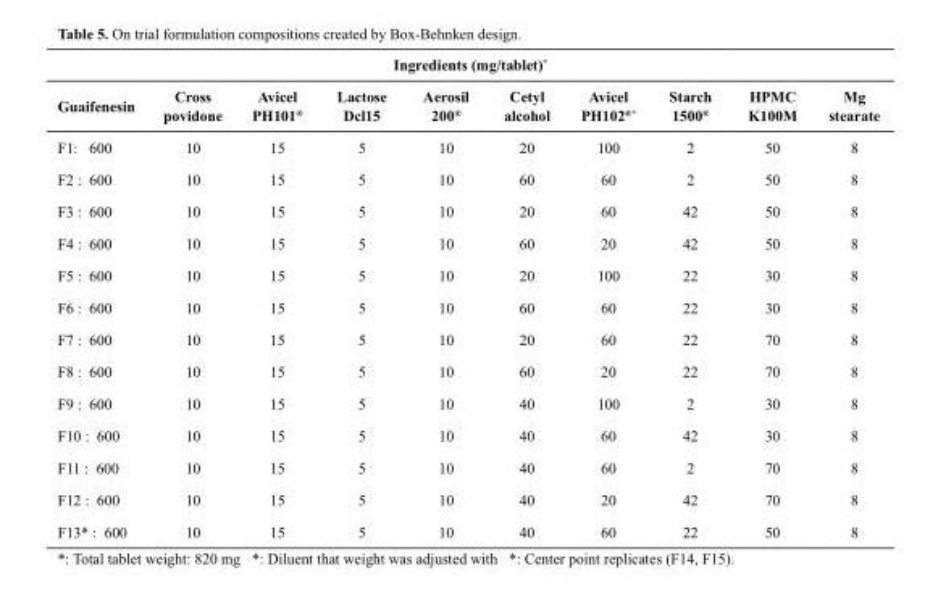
<table><thead><tr><td colspan="10">Ingredients (mg/tablet)*</td></tr><tr><td>Guaifenesin</td><td>Cross povidone</td><td>Avicel PH101<sup>®</sup></td><td>Lactose Dcl15</td><td>Aerosil 200<sup>®</sup></td><td>Cetyl alcohol</td><td>Avicel PH102<sup>®*</sup></td><td>Starch 1500<sup>®</sup></td><td>HPMC K100M</td><td>Mg stearate</td></tr></thead><tbody><tr><td>F1: 600</td><td>10</td><td>15</td><td>5</td><td>10</td><td>20</td><td>100</td><td>2</td><td>50</td><td>8</td></tr><tr><td>F2 : 600</td><td>10</td><td>15</td><td>5</td><td>10</td><td>60</td><td>60</td><td>2</td><td>50</td><td>8</td></tr><tr><td>F3 : 600</td><td>10</td><td>15</td><td>5</td><td>10</td><td>20</td><td>60</td><td>42</td><td>50</td><td>8</td></tr><tr><td>F4 : 600</td><td>10</td><td>15</td><td>5</td><td>10</td><td>60</td><td>20</td><td>42</td><td>50</td><td>8</td></tr><tr><td>F5 : 600</td><td>10</td><td>15</td><td>5</td><td>10</td><td>20</td><td>100</td><td>22</td><td>30</td><td>8</td></tr><tr><td>F6 : 600</td><td>10</td><td>15</td><td>5</td><td>10</td><td>60</td><td>60</td><td>22</td><td>30</td><td>8</td></tr><tr><td>F7 : 600</td><td>10</td><td>15</td><td>5</td><td>10</td><td>20</td><td>60</td><td>22</td><td>70</td><td>8</td></tr><tr><td>F8 : 600</td><td>10</td><td>15</td><td>5</td><td>10</td><td>60</td><td>20</td><td>22</td><td>70</td><td>8</td></tr><tr><td>F9 : 600</td><td>10</td><td>15</td><td>5</td><td>10</td><td>40</td><td>100</td><td>2</td><td>30</td><td>8</td></tr><tr><td>F10 : 600</td><td>10</td><td>15</td><td>5</td><td>10</td><td>40</td><td>60</td><td>42</td><td>30</td><td>8</td></tr><tr><td>F11 : 600</td><td>10</td><td>15</td><td>5</td><td>10</td><td>40</td><td>60</td><td>2</td><td>70</td><td>8</td></tr><tr><td>F12 : 600</td><td>10</td><td>15</td><td>5</td><td>10</td><td>40</td><td>20</td><td>42</td><td>70</td><td>8</td></tr><tr><td>F13* : 600</td><td>10</td><td>15</td><td>5</td><td>10</td><td>40</td><td>60</td><td>22</td><td>50</td><td>8</td></tr></tbody></table>